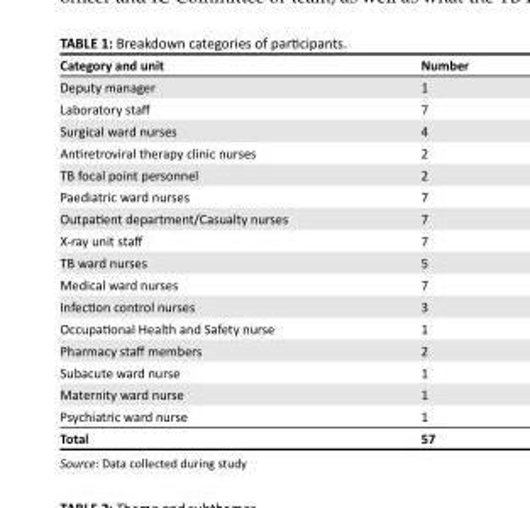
<table><thead><tr><td>Category and unit</td><td>Number</td></tr></thead><tbody><tr><td>Deputy manager</td><td>1</td></tr><tr><td>Laboratory staff</td><td>7</td></tr><tr><td>Surgical ward nurses</td><td>4</td></tr><tr><td>Antiretroviral therapy clinic nurses</td><td>2</td></tr><tr><td>TB focal point personnel</td><td>2</td></tr><tr><td>Paediatric ward nurses</td><td>7</td></tr><tr><td>Outpatient department/Casualty nurses</td><td>7</td></tr><tr><td>X-ray unit staff</td><td>7</td></tr><tr><td>TB ward nurses</td><td>5</td></tr><tr><td>Medical ward nurses</td><td>7</td></tr><tr><td>Infection control nurses</td><td>3</td></tr><tr><td>Occupational Health and Safety nurse</td><td>1</td></tr><tr><td>Pharmacy staff members</td><td>2</td></tr><tr><td>Subacute ward nurse</td><td>1</td></tr><tr><td>Maternity ward nurse</td><td>1</td></tr><tr><td>Psychiatric ward nurse</td><td>1</td></tr><tr><td>Total</td><td>57</td></tr></tbody></table>